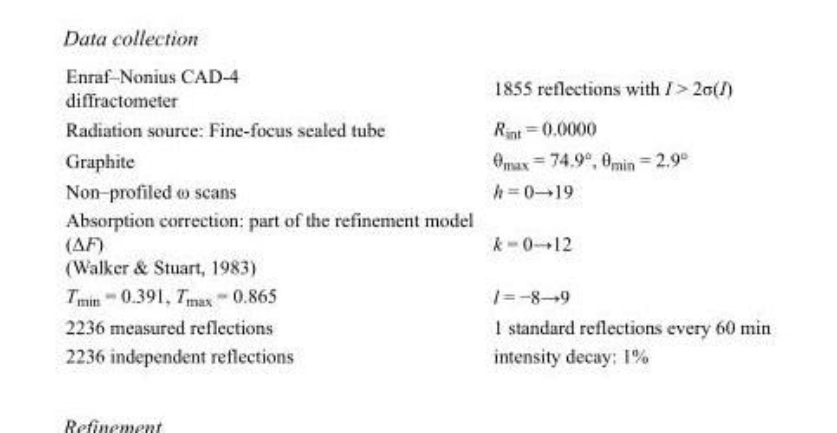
<table><tbody><tr><td>Enraf–Nonius CAD-4 diffractometer</td><td>1855 reflections with I &gt; 2σ(I)</td></tr><tr><td>Radiation source: Fine-focus sealed tube</td><td>R<sub>int</sub> = 0.0000</td></tr><tr><td>Graphite</td><td>θ<sub>max</sub> = 74.9°, θ<sub>min</sub> = 2.9°</td></tr><tr><td>Non–profiled ω scans</td><td>h = 0→19</td></tr><tr><td>Absorption correction: part of the refinement model (ΔF) (Walker &amp; Stuart, 1983)</td><td>k = 0→12</td></tr><tr><td>T<sub>min</sub> = 0.391, T<sub>max</sub> = 0.865</td><td>l = −8→9</td></tr><tr><td>2236 measured reflections</td><td>1 standard reflections every 60 min</td></tr><tr><td>2236 independent reflections</td><td>intensity decay: 1%</td></tr></tbody></table>